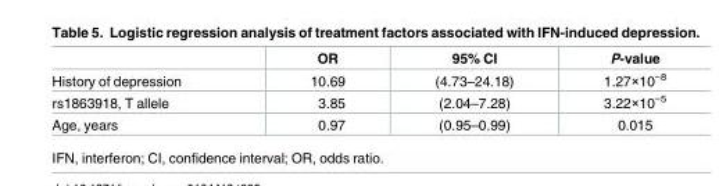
<table><thead><tr><td></td><td>OR</td><td>95% CI</td><td>P-value</td></tr></thead><tbody><tr><td>History of depression</td><td>10.69</td><td>(4.73–24.18)</td><td>1.27×10<sup>−8</sup></td></tr><tr><td>rs1863918, T allele</td><td>3.85</td><td>(2.04–7.28)</td><td>3.22×10<sup>−5</sup></td></tr><tr><td>Age, years</td><td>0.97</td><td>(0.95–0.99)</td><td>0.015</td></tr></tbody></table>